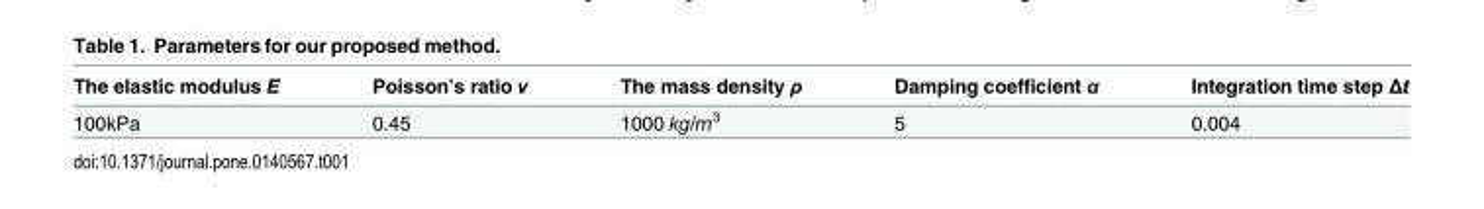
<table><thead><tr><td>The elastic modulus E</td><td>Poisson’s ratio v</td><td>The mass density ρ</td><td>Damping coefficient α</td><td>Integration time step Δt</td></tr></thead><tbody><tr><td>100kPa</td><td>0.45</td><td>1000 kg/m<sup>3</sup></td><td>5</td><td>0.004</td></tr></tbody></table>